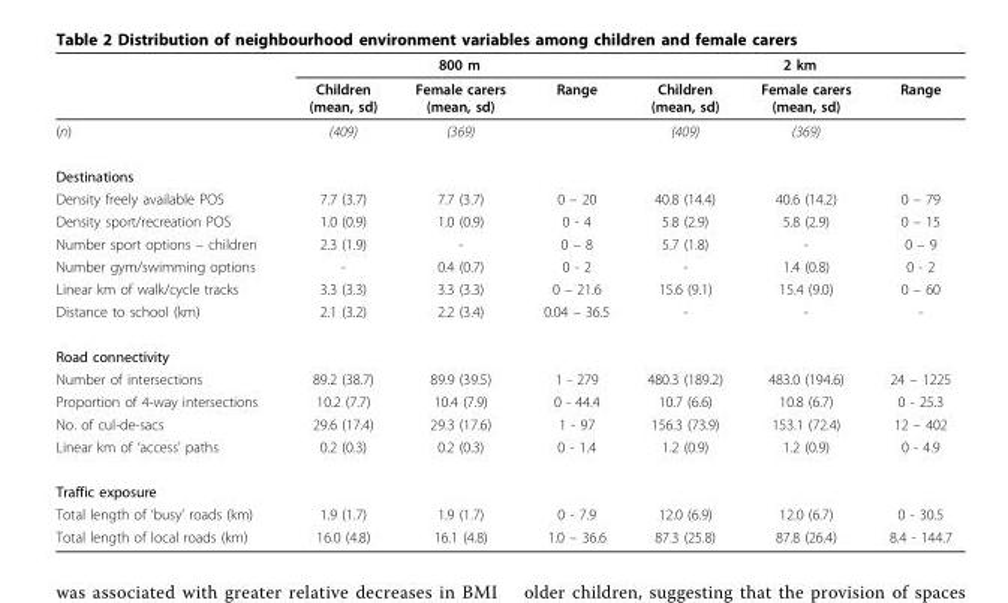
<table><thead><tr><td rowspan="2"></td><td colspan="3">800 m</td><td colspan="3">2 km</td></tr><tr><td>Children (mean, sd)</td><td>Female carers (mean, sd)</td><td>Range</td><td>Children (mean, sd)</td><td>Female carers (mean, sd)</td><td>Range</td></tr></thead><tbody><tr><td>(n)</td><td>(409)</td><td>(369)</td><td></td><td>(409)</td><td>(369)</td><td></td></tr><tr><td colspan="7">Destinations</td></tr><tr><td>Density freely available POS</td><td>7.7 (3.7)</td><td>7.7 (3.7)</td><td>0 – 20</td><td>40.8 (14.4)</td><td>40.6 (14.2)</td><td>0 – 79</td></tr><tr><td>Density sport/recreation POS</td><td>1.0 (0.9)</td><td>1.0 (0.9)</td><td>0 - 4</td><td>5.8 (2.9)</td><td>5.8 (2.9)</td><td>0 – 15</td></tr><tr><td>Number sport options – children</td><td>2.3 (1.9)</td><td>-</td><td>0 – 8</td><td>5.7 (1.8)</td><td>-</td><td>0 – 9</td></tr><tr><td>Number gym/swimming options</td><td>-</td><td>0.4 (0.7)</td><td>0 - 2</td><td>-</td><td>1.4 (0.8)</td><td>0 - 2</td></tr><tr><td>Linear km of walk/cycle tracks</td><td>3.3 (3.3)</td><td>3.3 (3.3)</td><td>0 – 21.6</td><td>15.6 (9.1)</td><td>15.4 (9.0)</td><td>0 – 60</td></tr><tr><td>Distance to school (km)</td><td>2.1 (3.2)</td><td>2.2 (3.4)</td><td>0.04 – 36.5</td><td>-</td><td>-</td><td>-</td></tr><tr><td colspan="7">Road connectivity</td></tr><tr><td>Number of intersections</td><td>89.2 (38.7)</td><td>89.9 (39.5)</td><td>1 - 279</td><td>480.3 (189.2)</td><td>483.0 (194.6)</td><td>24 – 1225</td></tr><tr><td>Proportion of 4-way intersections</td><td>10.2 (7.7)</td><td>10.4 (7.9)</td><td>0 - 44.4</td><td>10.7 (6.6)</td><td>10.8 (6.7)</td><td>0 - 25.3</td></tr><tr><td>No. of cul-de-sacs</td><td>29.6 (17.4)</td><td>29.3 (17.6)</td><td>1 - 97</td><td>156.3 (73.9)</td><td>153.1 (72.4)</td><td>12 – 402</td></tr><tr><td>Linear km of ‘access’ paths</td><td>0.2 (0.3)</td><td>0.2 (0.3)</td><td>0 - 1.4</td><td>1.2 (0.9)</td><td>1.2 (0.9)</td><td>0 - 4.9</td></tr><tr><td colspan="7">Traffic exposure</td></tr><tr><td>Total length of ‘busy’ roads (km)</td><td>1.9 (1.7)</td><td>1.9 (1.7)</td><td>0 - 7.9</td><td>12.0 (6.9)</td><td>12.0 (6.7)</td><td>0 - 30.5</td></tr><tr><td>Total length of local roads (km)</td><td>16.0 (4.8)</td><td>16.1 (4.8)</td><td>1.0 – 36.6</td><td>87.3 (25.8)</td><td>87.8 (26.4)</td><td>8.4 - 144.7</td></tr></tbody></table>